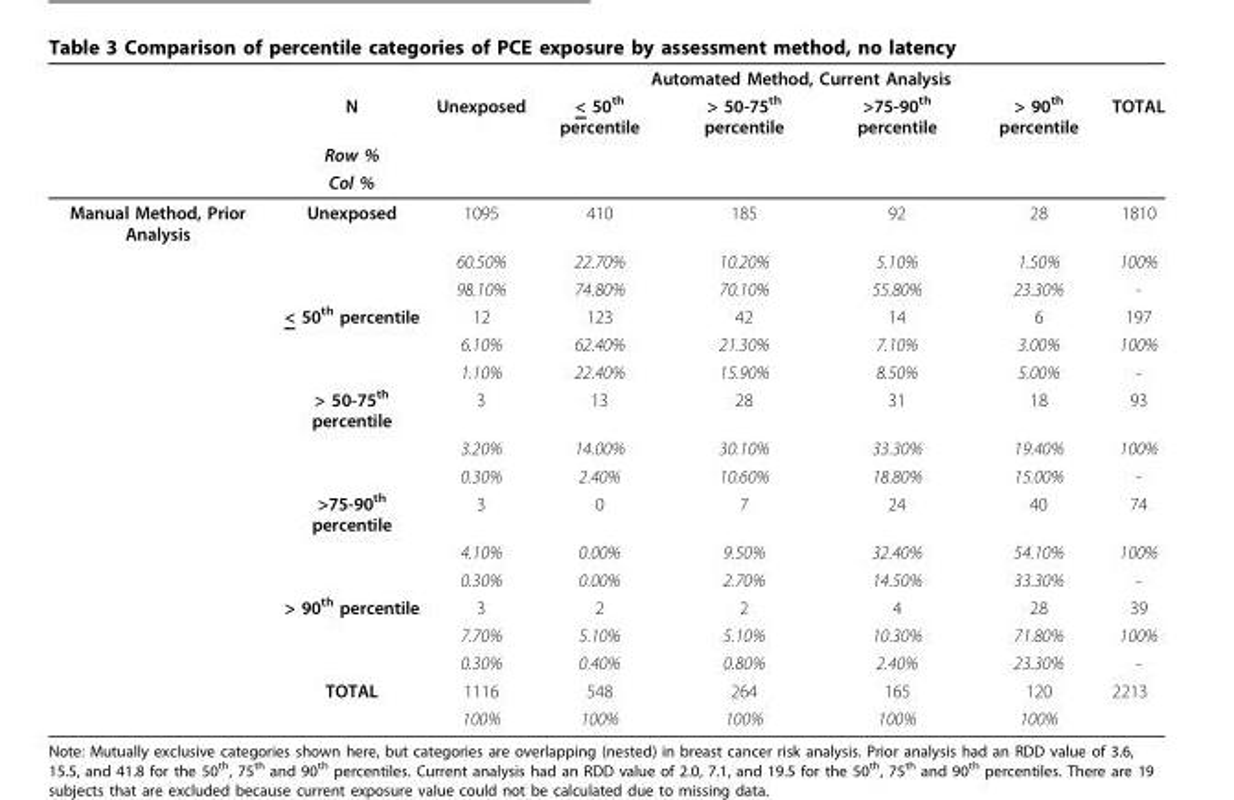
<table><thead><tr><td rowspan="4"></td><td rowspan="4">N Row % Col %</td><td colspan="6">Automated Method, Current Analysis</td></tr><tr><td rowspan="3">Unexposed</td><td rowspan="3">&lt; 50<sup>th</sup> percentile</td><td rowspan="3">&gt; 50-75<sup>th</sup> percentile</td><td rowspan="3">&gt;75-90<sup>th</sup> percentile</td><td rowspan="3">&gt; 90<sup>th</sup> percentile</td><td rowspan="3">TOTAL</td></tr><tr></tr><tr></tr></thead><tbody><tr><td rowspan="17">Manual Method, Prior Analysis</td><td>Unexposed</td><td>1095</td><td>410</td><td>185</td><td>92</td><td>28</td><td>1810</td></tr><tr><td></td><td>60.50%</td><td>22.70%</td><td>10.20%</td><td>5.10%</td><td>1.50%</td><td>100%</td></tr><tr><td></td><td>98.10%</td><td>74.80%</td><td>70.10%</td><td>55.80%</td><td>23.30%</td><td>-</td></tr><tr><td>&lt; 50<sup>th</sup> percentile</td><td>12</td><td>123</td><td>42</td><td>14</td><td>6</td><td>197</td></tr><tr><td></td><td>6.10%</td><td>62.40%</td><td>21.30%</td><td>7.10%</td><td>3.00%</td><td>100%</td></tr><tr><td></td><td>1.10%</td><td>22.40%</td><td>15.90%</td><td>8.50%</td><td>5.00%</td><td>-</td></tr><tr><td>&gt; 50-75<sup>th</sup> percentile</td><td>3</td><td>13</td><td>28</td><td>31</td><td>18</td><td>93</td></tr><tr><td></td><td>3.20%</td><td>14.00%</td><td>30.10%</td><td>33.30%</td><td>19.40%</td><td>100%</td></tr><tr><td></td><td>0.30%</td><td>2.40%</td><td>10.60%</td><td>18.80%</td><td>15.00%</td><td>-</td></tr><tr><td>&gt;75-90<sup>th</sup> percentile</td><td>3</td><td>0</td><td>7</td><td>24</td><td>40</td><td>74</td></tr><tr><td></td><td>4.10%</td><td>0.00%</td><td>9.50%</td><td>32.40%</td><td>54.10%</td><td>100%</td></tr><tr><td></td><td>0.30%</td><td>0.00%</td><td>2.70%</td><td>14.50%</td><td>33.30%</td><td>-</td></tr><tr><td>&gt; 90<sup>th</sup> percentile</td><td>3</td><td>2</td><td>2</td><td>4</td><td>28</td><td>39</td></tr><tr><td></td><td>7.70%</td><td>5.10%</td><td>5.10%</td><td>10.30%</td><td>71.80%</td><td>100%</td></tr><tr><td></td><td>0.30%</td><td>0.40%</td><td>0.80%</td><td>2.40%</td><td>23.30%</td><td>-</td></tr><tr><td>TOTAL</td><td>1116</td><td>548</td><td>264</td><td>165</td><td>120</td><td>2213</td></tr><tr><td></td><td>100%</td><td>100%</td><td>100%</td><td>100%</td><td>100%</td><td></td></tr></tbody></table>